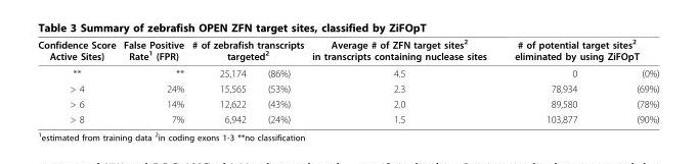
<table><thead><tr><td rowspan="2">Confidence Score Active Sites) **</td><td rowspan="2">False Positive Rate1 (FPR) **</td><td colspan="2"># of zebrafish transcripts targeted<sup>2</sup></td><td rowspan="2">Average # of ZFN target sites<sup>2</sup> in transcripts containing nuclease sites 4.5</td><td colspan="2"># of potential target sites<sup>2</sup> eliminated by using ZiFOpT</td></tr><tr><td>25,174</td><td>(86%)</td><td>0</td><td>(0%)</td></tr></thead><tbody><tr><td>&gt; 4</td><td>24%</td><td>15,565</td><td>(53%)</td><td>2.3</td><td>78,934</td><td>(69%)</td></tr><tr><td>&gt; 6</td><td>14%</td><td>12,622</td><td>(43%)</td><td>2.0</td><td>89,580</td><td>(78%)</td></tr><tr><td>&gt; 8</td><td>7%</td><td>6,942</td><td>(24%)</td><td>1.5</td><td>103,877</td><td>(90%)</td></tr></tbody></table>